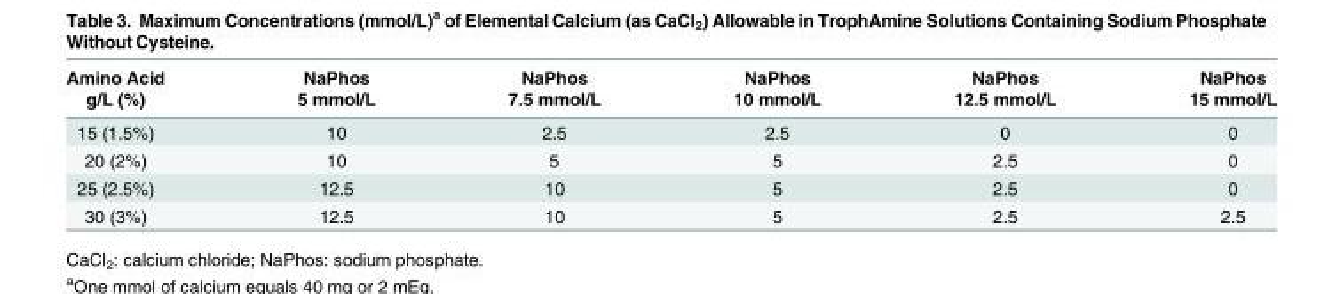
<table><thead><tr><td rowspan="2">Amino Acid g/L (%)</td><td rowspan="2">NaPhos 5 mmol/L</td><td rowspan="2">NaPhos 7.5 mmol/L</td><td rowspan="2">NaPhos 10 mmol/L</td><td rowspan="2">NaPhos 12.5 mmol/L</td><td rowspan="2">NaPhos 15 mmol/L</td></tr><tr></tr></thead><tbody><tr><td>15 (1.5%)</td><td>10</td><td>2.5</td><td>2.5</td><td>0</td><td>0</td></tr><tr><td>20 (2%)</td><td>10</td><td>5</td><td>5</td><td>2.5</td><td>0</td></tr><tr><td>25 (2.5%)</td><td>12.5</td><td>10</td><td>5</td><td>2.5</td><td>0</td></tr><tr><td>30 (3%)</td><td>12.5</td><td>10</td><td>5</td><td>2.5</td><td>2.5</td></tr></tbody></table>